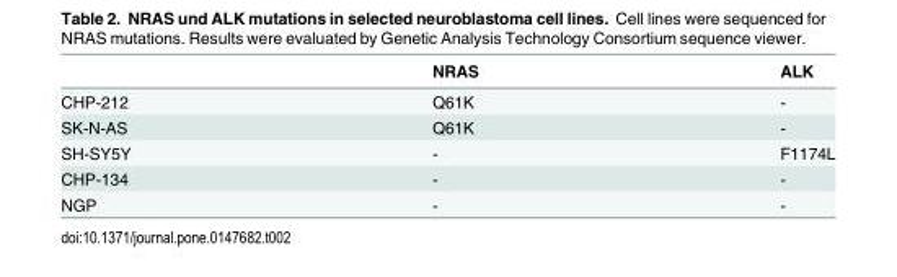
<table><thead><tr><td></td><td>NRAS</td><td>ALK</td></tr></thead><tbody><tr><td>CHP-212</td><td>Q61K</td><td>-</td></tr><tr><td>SK-N-AS</td><td>Q61K</td><td>-</td></tr><tr><td>SH-SY5Y</td><td>-</td><td>F1174L</td></tr><tr><td>CHP-134</td><td>-</td><td>-</td></tr><tr><td>NGP</td><td>-</td><td>-</td></tr></tbody></table>